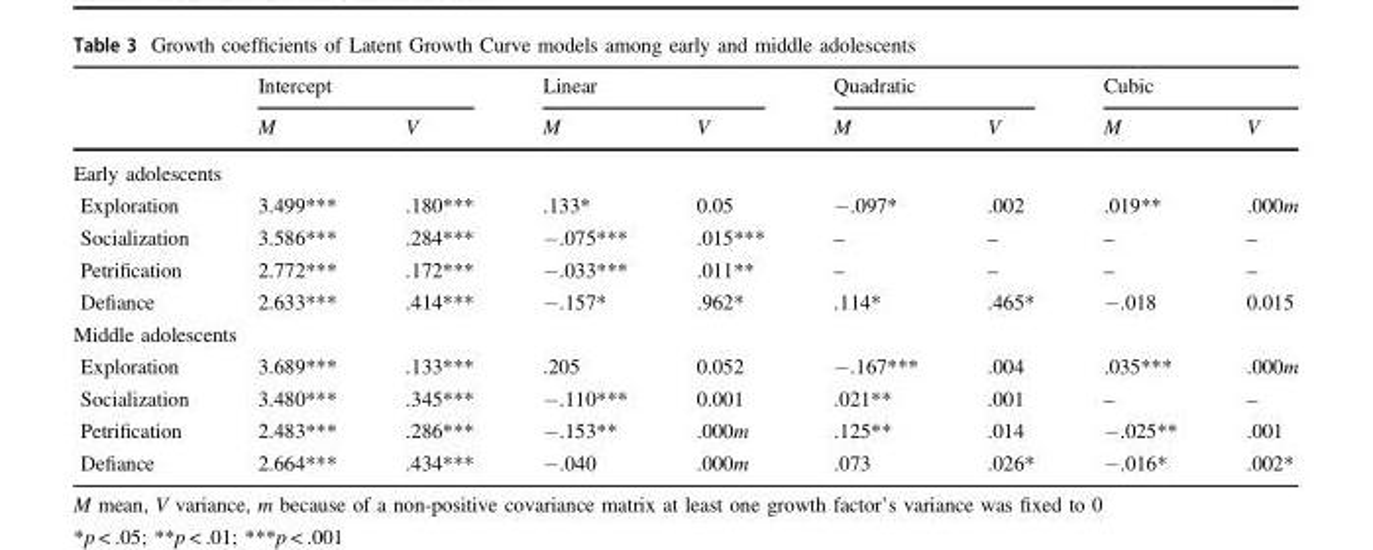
<table><thead><tr><td rowspan="2"></td><td colspan="2">Intercept</td><td colspan="2">Linear</td><td colspan="2">Quadratic</td><td colspan="2">Cubic</td></tr><tr><td>M</td><td>V</td><td>M</td><td>V</td><td>M</td><td>V</td><td>M</td><td>V</td></tr></thead><tbody><tr><td colspan="9">Early adolescents</td></tr><tr><td>Exploration</td><td>3.499***</td><td>.180***</td><td>.133*</td><td>0.05</td><td>−.097*</td><td>.002</td><td>.019**</td><td>.000m</td></tr><tr><td>Socialization</td><td>3.586***</td><td>.284***</td><td>−.075***</td><td>.015***</td><td>–</td><td>–</td><td>–</td><td>–</td></tr><tr><td>Petrification</td><td>2.772***</td><td>.172***</td><td>−.033***</td><td>.011**</td><td>–</td><td>–</td><td>–</td><td>–</td></tr><tr><td>Defiance</td><td>2.633***</td><td>.414***</td><td>−.157*</td><td>.962*</td><td>.114*</td><td>.465*</td><td>−.018</td><td>0.015</td></tr><tr><td colspan="9">Middle adolescents</td></tr><tr><td>Exploration</td><td>3.689***</td><td>.133***</td><td>.205</td><td>0.052</td><td>−.167***</td><td>.004</td><td>.035***</td><td>.000m</td></tr><tr><td>Socialization</td><td>3.480***</td><td>.345***</td><td>−.110***</td><td>0.001</td><td>.021**</td><td>.001</td><td>–</td><td>–</td></tr><tr><td>Petrification</td><td>2.483***</td><td>.286***</td><td>−.153**</td><td>.000m</td><td>.125**</td><td>.014</td><td>−.025**</td><td>.001</td></tr><tr><td>Defiance</td><td>2.664***</td><td>.434***</td><td>−.040</td><td>.000m</td><td>.073</td><td>.026*</td><td>−.016*</td><td>.002*</td></tr></tbody></table>